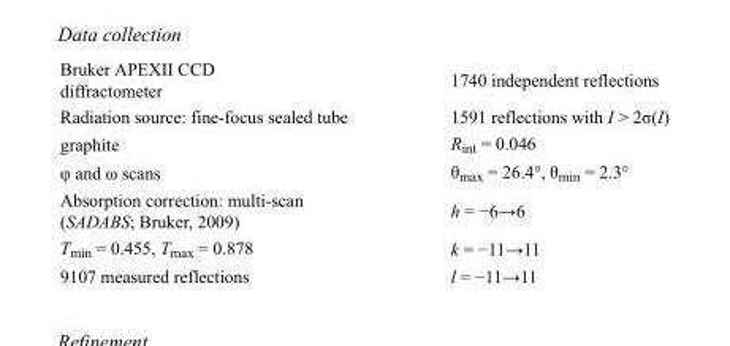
<table><tbody><tr><td>Bruker APEXII CCD diffractometer</td><td>1740 independent reflections</td></tr><tr><td>Radiation source: fine-focus sealed tube</td><td>1591 reflections with I &gt; 2σ(I)</td></tr><tr><td>graphite</td><td>R<sub>int</sub> = 0.046</td></tr><tr><td>φ and ω scans</td><td>θ<sub>max</sub> = 26.4°, θ<sub>min</sub> = 2.3°</td></tr><tr><td>Absorption correction: multi-scan (SADABS; Bruker, 2009)</td><td>h = −6→6</td></tr><tr><td>T<sub>min</sub> = 0.455, T<sub>max</sub> = 0.878</td><td>k = −11→11</td></tr><tr><td>9107 measured reflections</td><td>l = −11→11</td></tr></tbody></table>